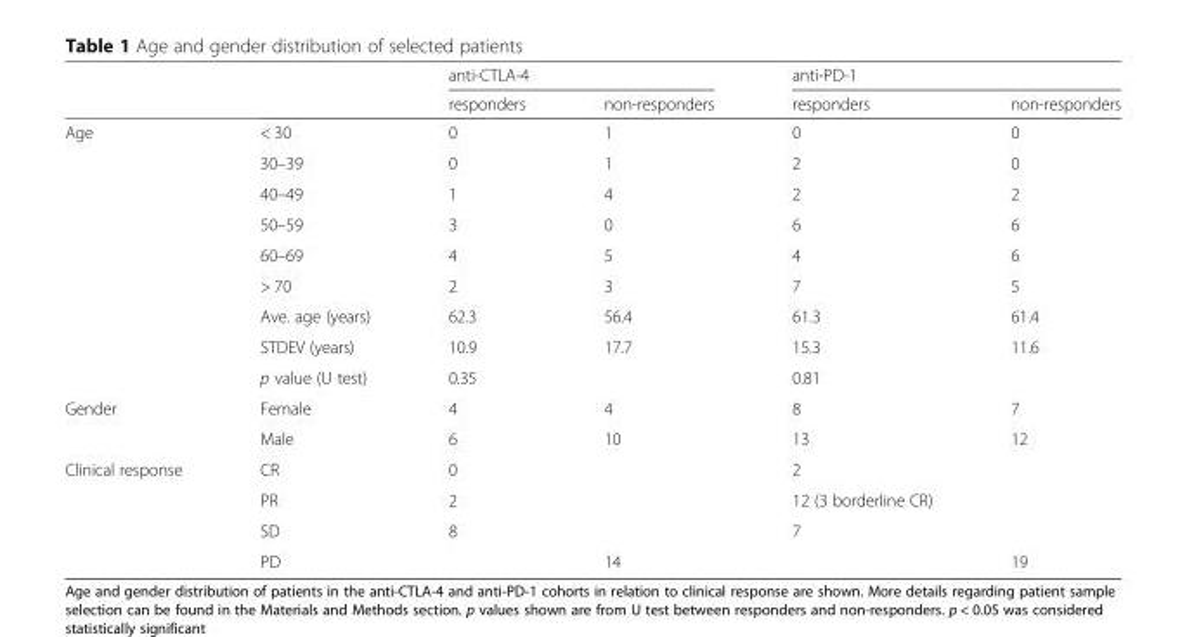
<table><thead><tr><td rowspan="2"></td><td rowspan="2"></td><td colspan="2">anti-CTLA-4</td><td colspan="2">anti-PD-1</td></tr><tr><td>responders</td><td>non-responders</td><td>responders</td><td>non-responders</td></tr></thead><tbody><tr><td rowspan="9">Age</td><td>&lt; 30</td><td>0</td><td>1</td><td>0</td><td>0</td></tr><tr><td>30–39</td><td>0</td><td>1</td><td>2</td><td>0</td></tr><tr><td>40–49</td><td>1</td><td>4</td><td>2</td><td>2</td></tr><tr><td>50–59</td><td>3</td><td>0</td><td>6</td><td>6</td></tr><tr><td>60–69</td><td>4</td><td>5</td><td>4</td><td>6</td></tr><tr><td>&gt; 70</td><td>2</td><td>3</td><td>7</td><td>5</td></tr><tr><td>Ave. age (years)</td><td>62.3</td><td>56.4</td><td>61.3</td><td>61.4</td></tr><tr><td>STDEV (years)</td><td>10.9</td><td>17.7</td><td>15.3</td><td>11.6</td></tr><tr><td>p value (U test)</td><td colspan="2">0.35</td><td colspan="2">0.81</td></tr><tr><td rowspan="2">Gender</td><td>Female</td><td>4</td><td>4</td><td>8</td><td>7</td></tr><tr><td>Male</td><td>6</td><td>10</td><td>13</td><td>12</td></tr><tr><td rowspan="4">Clinical response</td><td>CR</td><td>0</td><td></td><td>2</td><td></td></tr><tr><td>PR</td><td>2</td><td></td><td>12 (3 borderline CR)</td><td></td></tr><tr><td>SD</td><td>8</td><td></td><td>7</td><td></td></tr><tr><td>PD</td><td></td><td>14</td><td></td><td>19</td></tr></tbody></table>